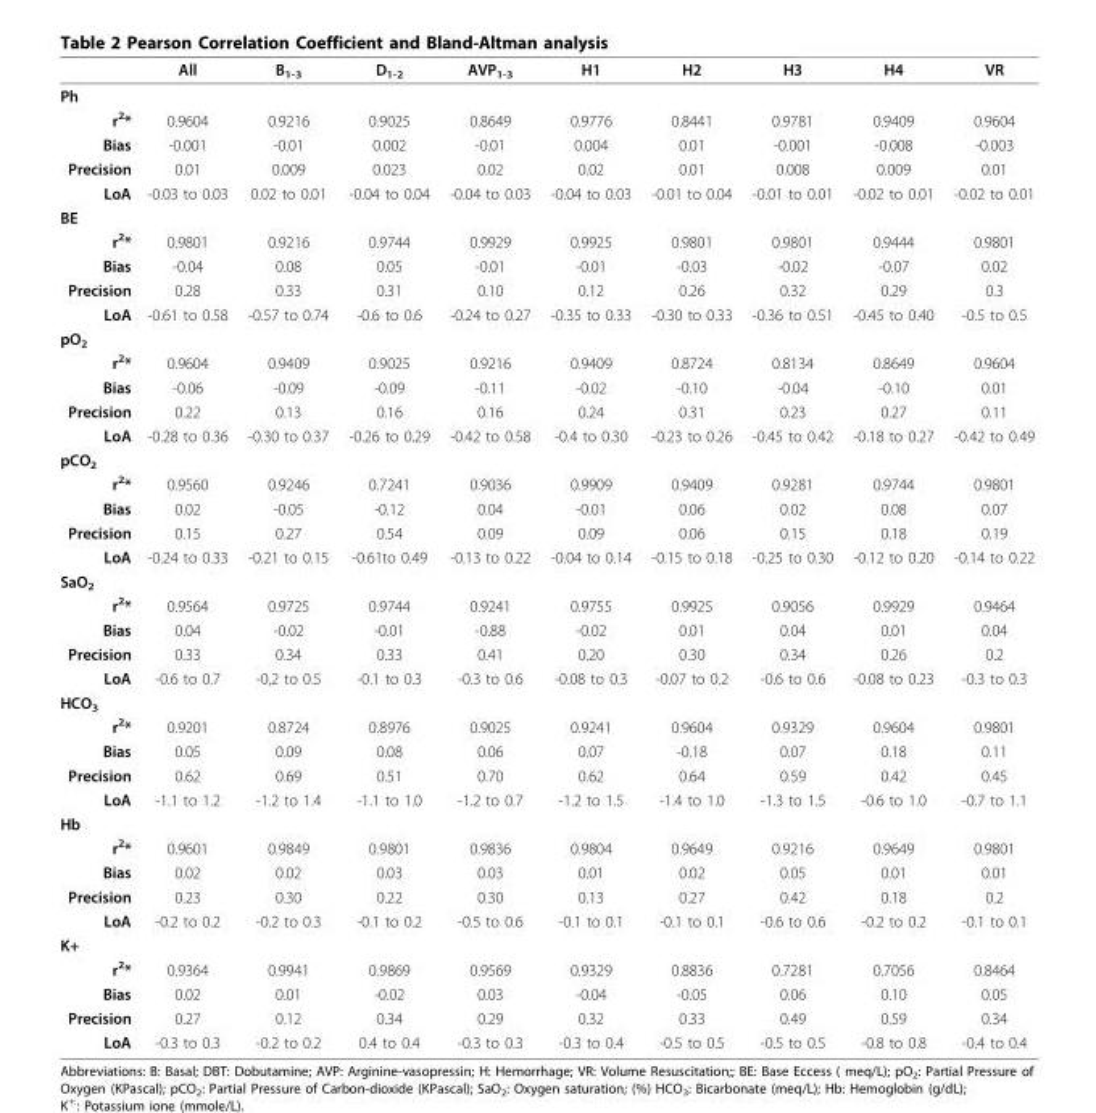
<table><thead><tr><td></td><td>All</td><td>B<sub>1-3</sub></td><td>D<sub>1-2</sub></td><td>AVP<sub>1-3</sub></td><td>H1</td><td>H2</td><td>H3</td><td>H4</td><td>VR</td></tr></thead><tbody><tr><td colspan="10">Ph</td></tr><tr><td>r<sup>2</sup>*</td><td>0.9604</td><td>0.9216</td><td>0.9025</td><td>0.8649</td><td>0.9776</td><td>0.8441</td><td>0.9781</td><td>0.9409</td><td>0.9604</td></tr><tr><td>Bias</td><td>-0.001</td><td>-0.01</td><td>0.002</td><td>-0.01</td><td>0.004</td><td>0.01</td><td>-0.001</td><td>-0.008</td><td>-0.003</td></tr><tr><td>Precision</td><td>0.01</td><td>0.009</td><td>0.023</td><td>0.02</td><td>0.02</td><td>0.01</td><td>0.008</td><td>0.009</td><td>0.01</td></tr><tr><td>LoA</td><td>-0.03 to 0.03</td><td>0.02 to 0.01</td><td>-0.04 to 0.04</td><td>-0.04 to 0.03</td><td>-0.04 to 0.03</td><td>-0.01 to 0.04</td><td>-0.01 to 0.01</td><td>-0.02 to 0.01</td><td>-0.02 to 0.01</td></tr><tr><td colspan="10">BE</td></tr><tr><td>r<sup>2</sup>*</td><td>0.9801</td><td>0.9216</td><td>0.9744</td><td>0.9929</td><td>0.9925</td><td>0.9801</td><td>0.9801</td><td>0.9444</td><td>0.9801</td></tr><tr><td>Bias</td><td>-0.04</td><td>0.08</td><td>0.05</td><td>-0.01</td><td>-0.01</td><td>-0.03</td><td>-0.02</td><td>-0.07</td><td>0.02</td></tr><tr><td>Precision</td><td>0.28</td><td>0.33</td><td>0.31</td><td>0.10</td><td>0.12</td><td>0.26</td><td>0.32</td><td>0.29</td><td>0.3</td></tr><tr><td>LoA</td><td>-0.61 to 0.58</td><td>-0.57 to 0.74</td><td>-0.6 to 0.6</td><td>-0.24 to 0.27</td><td>-0.35 to 0.33</td><td>-0.30 to 0.33</td><td>-0.36 to 0.51</td><td>-0.45 to 0.40</td><td>-0.5 to 0.5</td></tr><tr><td colspan="10">pO<sub>2</sub></td></tr><tr><td>r<sup>2</sup>*</td><td>0.9604</td><td>0.9409</td><td>0.9025</td><td>0.9216</td><td>0.9409</td><td>0.8724</td><td>0.8134</td><td>0.8649</td><td>0.9604</td></tr><tr><td>Bias</td><td>-0.06</td><td>-0.09</td><td>-0.09</td><td>-0.11</td><td>-0.02</td><td>-0.10</td><td>-0.04</td><td>-0.10</td><td>0.01</td></tr><tr><td>Precision</td><td>0.22</td><td>0.13</td><td>0.16</td><td>0.16</td><td>0.24</td><td>0.31</td><td>0.23</td><td>0.27</td><td>0.11</td></tr><tr><td>LoA</td><td>-0.28 to 0.36</td><td>-0.30 to 0.37</td><td>-0.26 to 0.29</td><td>-0.42 to 0.58</td><td>-0.4 to 0.30</td><td>-0.23 to 0.26</td><td>-0.45 to 0.42</td><td>-0.18 to 0.27</td><td>-0.42 to 0.49</td></tr><tr><td colspan="10">pCO<sub>2</sub></td></tr><tr><td>r<sup>2</sup>*</td><td>0.9560</td><td>0.9246</td><td>0.7241</td><td>0.9036</td><td>0.9909</td><td>0.9409</td><td>0.9281</td><td>0.9744</td><td>0.9801</td></tr><tr><td>Bias</td><td>0.02</td><td>-0.05</td><td>-0.12</td><td>0.04</td><td>-0.01</td><td>0.06</td><td>0.02</td><td>0.08</td><td>0.07</td></tr><tr><td>Precision</td><td>0.15</td><td>0.27</td><td>0.54</td><td>0.09</td><td>0.09</td><td>0.06</td><td>0.15</td><td>0.18</td><td>0.19</td></tr><tr><td>LoA</td><td>-0.24 to 0.33</td><td>-0.21 to 0.15</td><td>-0.61to 0.49</td><td>-0.13 to 0.22</td><td>-0.04 to 0.14</td><td>-0.15 to 0.18</td><td>-0.25 to 0.30</td><td>-0.12 to 0.20</td><td>-0.14 to 0.22</td></tr><tr><td colspan="10">SaO<sub>2</sub></td></tr><tr><td>r<sup>2</sup>*</td><td>0.9564</td><td>0.9725</td><td>0.9744</td><td>0.9241</td><td>0.9755</td><td>0.9925</td><td>0.9056</td><td>0.9929</td><td>0.9464</td></tr><tr><td>Bias</td><td>0.04</td><td>-0.02</td><td>-0.01</td><td>-0.88</td><td>-0.02</td><td>0.01</td><td>0.04</td><td>0.01</td><td>0.04</td></tr><tr><td>Precision</td><td>0.33</td><td>0.34</td><td>0.33</td><td>0.41</td><td>0.20</td><td>0.30</td><td>0.34</td><td>0.26</td><td>0.2</td></tr><tr><td>LoA</td><td>-0.6 to 0.7</td><td>-0,2 to 0.5</td><td>-0.1 to 0.3</td><td>-0.3 to 0.6</td><td>-0.08 to 0.3</td><td>-0.07 to 0.2</td><td>-0.6 to 0.6</td><td>-0.08 to 0.23</td><td>-0.3 to 0.3</td></tr><tr><td colspan="10">HCO<sub>3</sub></td></tr><tr><td>r<sup>2</sup>*</td><td>0.9201</td><td>0.8724</td><td>0.8976</td><td>0.9025</td><td>0.9241</td><td>0.9604</td><td>0.9329</td><td>0.9604</td><td>0.9801</td></tr><tr><td>Bias</td><td>0.05</td><td>0.09</td><td>0.08</td><td>0.06</td><td>0.07</td><td>-0.18</td><td>0.07</td><td>0.18</td><td>0.11</td></tr><tr><td>Precision</td><td>0.62</td><td>0.69</td><td>0.51</td><td>0.70</td><td>0.62</td><td>0.64</td><td>0.59</td><td>0.42</td><td>0.45</td></tr><tr><td>LoA</td><td>-1.1 to 1.2</td><td>-1.2 to 1.4</td><td>-1.1 to 1.0</td><td>-1.2 to 0.7</td><td>-1.2 to 1.5</td><td>-1.4 to 1.0</td><td>-1.3 to 1.5</td><td>-0.6 to 1.0</td><td>-0.7 to 1.1</td></tr><tr><td colspan="10">Hb</td></tr><tr><td>r<sup>2</sup>*</td><td>0.9601</td><td>0.9849</td><td>0.9801</td><td>0.9836</td><td>0.9804</td><td>0.9649</td><td>0.9216</td><td>0.9649</td><td>0.9801</td></tr><tr><td>Bias</td><td>0.02</td><td>0.02</td><td>0.03</td><td>0.03</td><td>0.01</td><td>0.02</td><td>0.05</td><td>0.01</td><td>0.01</td></tr><tr><td>Precision</td><td>0.23</td><td>0.30</td><td>0.22</td><td>0.30</td><td>0.13</td><td>0.27</td><td>0.42</td><td>0.18</td><td>0.2</td></tr><tr><td>LoA</td><td>-0.2 to 0.2</td><td>-0.2 to 0.3</td><td>-0.1 to 0.2</td><td>-0.5 to 0.6</td><td>-0.1 to 0.1</td><td>-0.1 to 0.1</td><td>-0.6 to 0.6</td><td>-0.2 to 0.2</td><td>-0.1 to 0.1</td></tr><tr><td colspan="10">K+</td></tr><tr><td>r<sup>2</sup>*</td><td>0.9364</td><td>0.9941</td><td>0.9869</td><td>0.9569</td><td>0.9329</td><td>0.8836</td><td>0.7281</td><td>0.7056</td><td>0.8464</td></tr><tr><td>Bias</td><td>0.02</td><td>0.01</td><td>-0.02</td><td>0.03</td><td>-0.04</td><td>-0.05</td><td>0.06</td><td>0.10</td><td>0.05</td></tr><tr><td>Precision</td><td>0.27</td><td>0.12</td><td>0.34</td><td>0.29</td><td>0.32</td><td>0.33</td><td>0.49</td><td>0.59</td><td>0.34</td></tr><tr><td>LoA</td><td>-0.3 to 0.3</td><td>-0.2 to 0.2</td><td>0.4 to 0.4</td><td>-0.3 to 0.3</td><td>-0.3 to 0.4</td><td>-0.5 to 0.5</td><td>-0.5 to 0.5</td><td>-0.8 to 0.8</td><td>-0.4 to 0.4</td></tr></tbody></table>